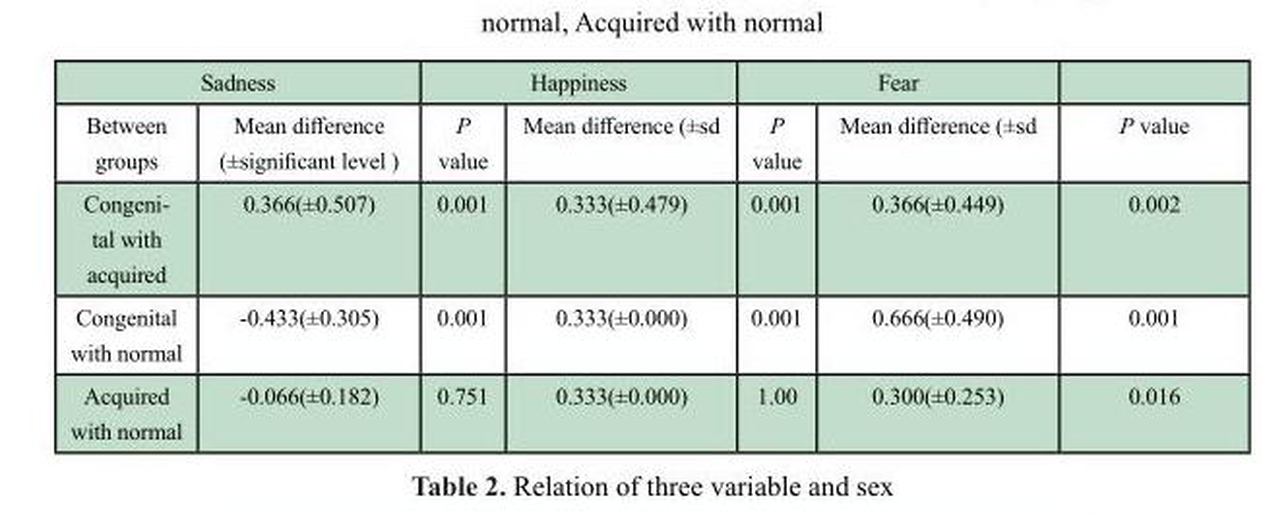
<table><thead><tr><td rowspan="2">Between groups</td><td colspan="2">Sadness</td><td colspan="2">Happiness</td><td colspan="2">Fear</td></tr><tr><td>Mean difference (±significant level )</td><td>P value</td><td>Mean difference (±sd</td><td>P value</td><td>Mean difference (±sd</td><td>P value</td></tr></thead><tbody><tr><td>Congeni- tal with acquired</td><td>0.366(±0.507)</td><td>0.001</td><td>0.333(±0.479)</td><td>0.001</td><td>0.366(±0.449)</td><td>0.002</td></tr><tr><td>Congenital with normal</td><td>-0.433(±0.305)</td><td>0.001</td><td>0.333(±0.000)</td><td>0.001</td><td>0.666(±0.490)</td><td>0.001</td></tr><tr><td>Acquired with normal</td><td>-0.066(±0.182)</td><td>0.751</td><td>0.333(±0.000)</td><td>1.00</td><td>0.300(±0.253)</td><td>0.016</td></tr></tbody></table>